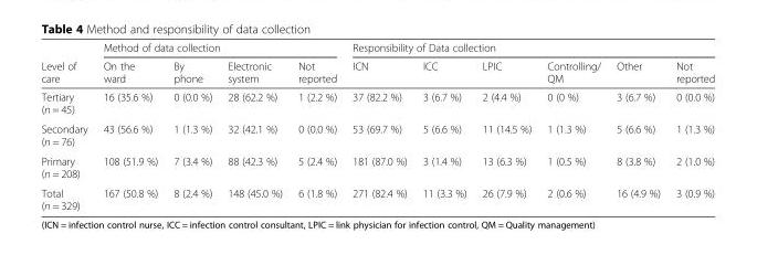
<table><thead><tr><td rowspan="2">Level of care</td><td colspan="4">Method of data collection</td><td colspan="6">Responsibility of Data collection</td></tr><tr><td>On the ward</td><td>By phone</td><td>Electronic system</td><td>Not reported</td><td>ICN</td><td>ICC</td><td>LPIC</td><td>Controlling/ QM</td><td>Other</td><td>Not reported</td></tr></thead><tbody><tr><td>Tertiary (n = 45)</td><td>16 (35.6 %)</td><td>0 (0.0 %)</td><td>28 (62.2 %)</td><td>1 (2.2 %)</td><td>37 (82.2 %)</td><td>3 (6.7 %)</td><td>2 (4.4 %)</td><td>0 (0 %)</td><td>3 (6.7 %)</td><td>0 (0.0 %)</td></tr><tr><td>Secondary (n = 76)</td><td>43 (56.6 %)</td><td>1 (1.3 %)</td><td>32 (42.1 %)</td><td>0 (0.0 %)</td><td>53 (69.7 %)</td><td>5 (6.6 %)</td><td>11 (14.5 %)</td><td>1 (1.3 %)</td><td>5 (6.6 %)</td><td>1 (1.3 %)</td></tr><tr><td>Primary (n = 208)</td><td>108 (51.9 %)</td><td>7 (3.4 %)</td><td>88 (42.3 %)</td><td>5 (2.4 %)</td><td>181 (87.0 %)</td><td>3 (1.4 %)</td><td>13 (6.3 %)</td><td>1 (0.5 %)</td><td>8 (3.8 %)</td><td>2 (1.0 %)</td></tr><tr><td>Total (n = 329)</td><td>167 (50.8 %)</td><td>8 (2.4 %)</td><td>148 (45.0 %)</td><td>6 (1.8 %)</td><td>271 (82.4 %)</td><td>11 (3.3 %)</td><td>26 (7.9 %)</td><td>2 (0.6 %)</td><td>16 (4.9 %)</td><td>3 (0.9 %)</td></tr></tbody></table>